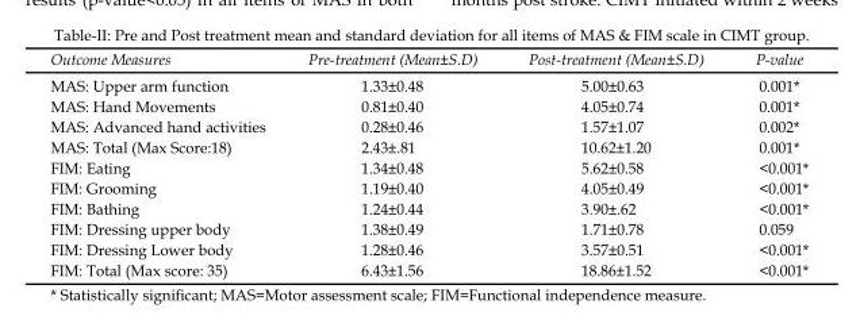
<table><thead><tr><td>Outcome Measures</td><td>Pre-treatment (Mean±S.D)</td><td>Post-treatment (Mean±S.D)</td><td>P-value</td></tr></thead><tbody><tr><td>MAS: Upper arm function</td><td>1.33±0.48</td><td>5.00±0.63</td><td>0.001*</td></tr><tr><td>MAS: Hand Movements</td><td>0.81±0.40</td><td>4.05±0.74</td><td>0.001*</td></tr><tr><td>MAS: Advanced hand activities</td><td>0.28±0.46</td><td>1.57±1.07</td><td>0.002*</td></tr><tr><td>MAS: Total (Max Score:18)</td><td>2.43±.81</td><td>10.62±1.20</td><td>0.001*</td></tr><tr><td>FIM: Eating</td><td>1.34±0.48</td><td>5.62±0.58</td><td>&lt;0.001*</td></tr><tr><td>FIM: Grooming</td><td>1.19±0.40</td><td>4.05±0.49</td><td>&lt;0.001*</td></tr><tr><td>FIM: Bathing</td><td>1.24±0.44</td><td>3.90±.62</td><td>&lt;0.001*</td></tr><tr><td>FIM: Dressing upper body</td><td>1.38±0.49</td><td>1.71±0.78</td><td>0.059</td></tr><tr><td>FIM: Dressing Lower body</td><td>1.28±0.46</td><td>3.57±0.51</td><td>&lt;0.001*</td></tr><tr><td>FIM: Total (Max score: 35)</td><td>6.43±1.56</td><td>18.86±1.52</td><td>&lt;0.001*</td></tr></tbody></table>